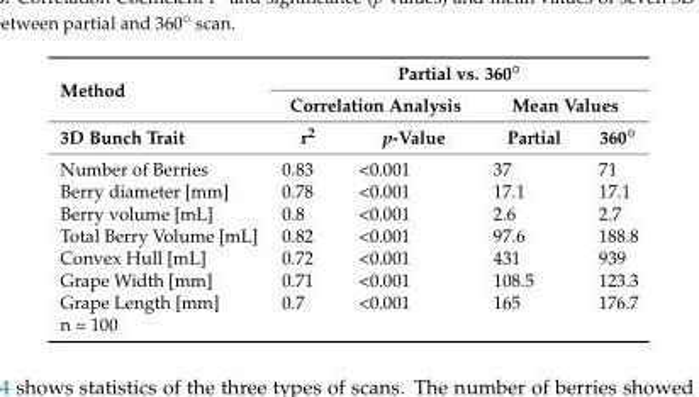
<table><thead><tr><td rowspan="3">Method 3D Bunch Trait</td><td colspan="4">Partial vs. 360◦</td></tr><tr><td colspan="2">Correlation Analysis</td><td colspan="2">Mean Values</td></tr><tr><td>r<sup>2</sup></td><td>p-Value</td><td>Partial</td><td>360◦</td></tr></thead><tbody><tr><td>Number of Berries</td><td>0.83</td><td>&lt;0.001</td><td>37</td><td>71</td></tr><tr><td>Berry diameter [mm]</td><td>0.78</td><td>&lt;0.001</td><td>17.1</td><td>17.1</td></tr><tr><td>Berry volume [mL]</td><td>0.8</td><td>&lt;0.001</td><td>2.6</td><td>2.7</td></tr><tr><td>Total Berry Volume [mL]</td><td>0.82</td><td>&lt;0.001</td><td>97.6</td><td>188.8</td></tr><tr><td>Convex Hull [mL]</td><td>0.72</td><td>&lt;0.001</td><td>431</td><td>939</td></tr><tr><td>Grape Width [mm]</td><td>0.71</td><td>&lt;0.001</td><td>108.5</td><td>123.3</td></tr><tr><td>Grape Length [mm]</td><td>0.7</td><td>&lt;0.001</td><td>165</td><td>176.7</td></tr><tr><td>n = 100</td><td></td><td></td><td></td><td></td></tr></tbody></table>